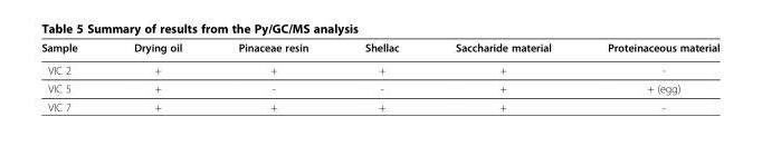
<table><thead><tr><td>Sample</td><td>Drying oil</td><td>Pinaceae resin</td><td>Shellac</td><td>Saccharide material</td><td>Proteinaceous material</td></tr></thead><tbody><tr><td>VIC 2</td><td>+</td><td>+</td><td>+</td><td>+</td><td>-</td></tr><tr><td>VIC 5</td><td>+</td><td>-</td><td>-</td><td>+</td><td>+ (egg)</td></tr><tr><td>VIC 7</td><td>+</td><td>+</td><td>+</td><td>+</td><td>-</td></tr></tbody></table>